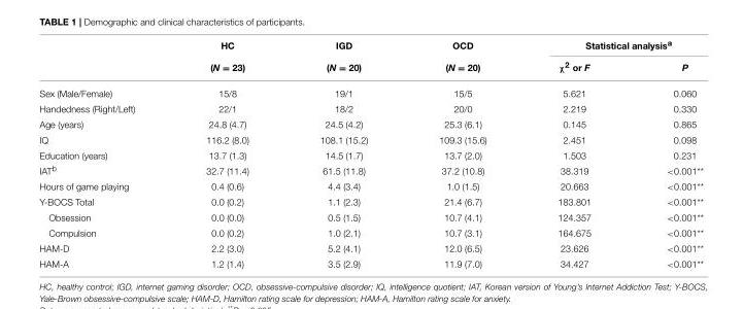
<table><thead><tr><td rowspan="2"></td><td rowspan="2">HC (N = 23)</td><td rowspan="2">IGD (N = 20)</td><td rowspan="2">OCD (N = 20)</td><td colspan="2">Statistical analysis<sup>a</sup></td></tr><tr><td>χ<sup>2</sup> or F</td><td>P</td></tr></thead><tbody><tr><td>Sex (Male/Female)</td><td>15/8</td><td>19/1</td><td>15/5</td><td>5.621</td><td>0.060</td></tr><tr><td>Handedness (Right/Left)</td><td>22/1</td><td>18/2</td><td>20/0</td><td>2.219</td><td>0.330</td></tr><tr><td>Age (years)</td><td>24.8 (4.7)</td><td>24.5 (4.2)</td><td>25.3 (6.1)</td><td>0.145</td><td>0.865</td></tr><tr><td>IQ</td><td>116.2 (8.0)</td><td>108.1 (15.2)</td><td>109.3 (15.6)</td><td>2.451</td><td>0.098</td></tr><tr><td>Education (years)</td><td>13.7 (1.3)</td><td>14.5 (1.7)</td><td>13.7 (2.0)</td><td>1.503</td><td>0.231</td></tr><tr><td>IAT<sup>b</sup></td><td>32.7 (11.4)</td><td>61.5 (11.8)</td><td>37.2 (10.8)</td><td>38.319</td><td>&lt;0.001**</td></tr><tr><td>Hours of game playing</td><td>0.4 (0.6)</td><td>4.4 (3.4)</td><td>1.0 (1.5)</td><td>20.663</td><td>&lt;0.001**</td></tr><tr><td>Y-BOCS Total</td><td>0.0 (0.2)</td><td>1.1 (2.3)</td><td>21.4 (6.7)</td><td>183.801</td><td>&lt;0.001**</td></tr><tr><td>Obsession</td><td>0.0 (0.0)</td><td>0.5 (1.5)</td><td>10.7 (4.1)</td><td>124.357</td><td>&lt;0.001**</td></tr><tr><td>Compulsion</td><td>0.0 (0.2)</td><td>1.0 (2.1)</td><td>10.7 (3.1)</td><td>164.675</td><td>&lt;0.001**</td></tr><tr><td>HAM-D</td><td>2.2 (3.0)</td><td>5.2 (4.1)</td><td>12.0 (6.5)</td><td>23.626</td><td>&lt;0.001**</td></tr><tr><td>HAM-A</td><td>1.2 (1.4)</td><td>3.5 (2.9)</td><td>11.9 (7.0)</td><td>34.427</td><td>&lt;0.001**</td></tr></tbody></table>